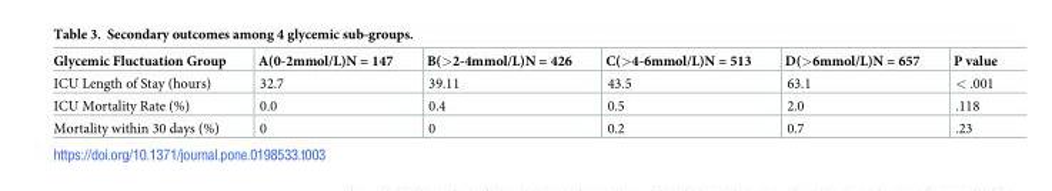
<table><thead><tr><td>Glycemic Fluctuation Group</td><td>A(0-2mmol/L)N = 147</td><td>B(&gt;2-4mmol/L)N = 426</td><td>C(&gt;4-6mmol/L)N = 513</td><td>D(&gt;6mmol/L)N = 657</td><td>P value</td></tr></thead><tbody><tr><td>ICU Length of Stay (hours)</td><td>32.7</td><td>39.11</td><td>43.5</td><td>63.1</td><td>&lt; .001</td></tr><tr><td>ICU Mortality Rate (%)</td><td>0.0</td><td>0.4</td><td>0.5</td><td>2.0</td><td>.118</td></tr><tr><td>Mortality within 30 days (%)</td><td>0</td><td>0</td><td>0.2</td><td>0.7</td><td>.23</td></tr></tbody></table>